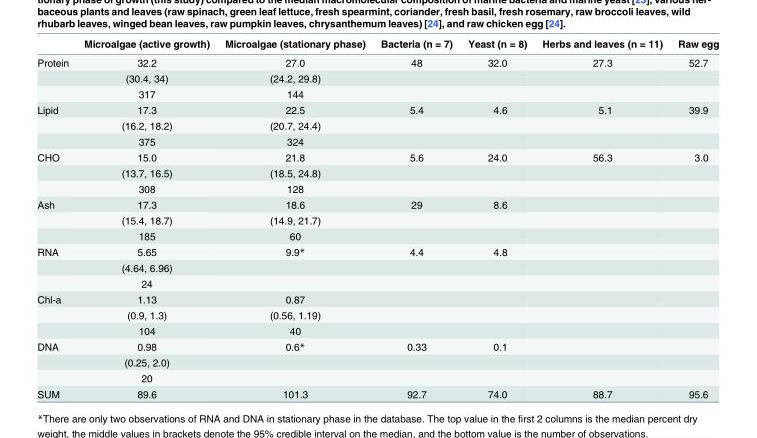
<table><thead><tr><td></td><td>Microalgae (active growth)</td><td>Microalgae (stationary phase)</td><td>Bacteria (n = 7)</td><td>Yeast (n = 8)</td><td>Herbs and leaves (n = 11)</td><td>Raw egg</td></tr></thead><tbody><tr><td rowspan="3">Protein</td><td>32.2</td><td>27.0</td><td>48</td><td>32.0</td><td>27.3</td><td>52.7</td></tr><tr><td>(30.4, 34)</td><td>(24.2, 29.8)</td><td></td><td></td><td></td><td></td></tr><tr><td>317</td><td>144</td><td></td><td></td><td></td><td></td></tr><tr><td rowspan="3">Lipid</td><td>17.3</td><td>22.5</td><td>5.4</td><td>4.6</td><td>5.1</td><td>39.9</td></tr><tr><td>(16.2, 18.2)</td><td>(20.7, 24.4)</td><td></td><td></td><td></td><td></td></tr><tr><td>375</td><td>324</td><td></td><td></td><td></td><td></td></tr><tr><td rowspan="3">CHO</td><td>15.0</td><td>21.8</td><td>5.6</td><td>24.0</td><td>56.3</td><td>3.0</td></tr><tr><td>(13.7, 16.5)</td><td>(18.5, 24.8)</td><td></td><td></td><td></td><td></td></tr><tr><td>308</td><td>128</td><td></td><td></td><td></td><td></td></tr><tr><td rowspan="3">Ash</td><td>17.3</td><td>18.6</td><td>29</td><td>8.6</td><td></td><td></td></tr><tr><td>(15.4, 18.7)</td><td>(14.9, 21.7)</td><td></td><td></td><td></td><td></td></tr><tr><td>185</td><td>60</td><td></td><td></td><td></td><td></td></tr><tr><td rowspan="3">RNA</td><td>5.65</td><td>9.9*</td><td>4.4</td><td>4.8</td><td></td><td></td></tr><tr><td>(4.64, 6.96)</td><td></td><td></td><td></td><td></td><td></td></tr><tr><td>24</td><td></td><td></td><td></td><td></td><td></td></tr><tr><td rowspan="3">Chl-a</td><td>1.13</td><td>0.87</td><td></td><td></td><td></td><td></td></tr><tr><td>(0.9, 1.3)</td><td>(0.56, 1.19)</td><td></td><td></td><td></td><td></td></tr><tr><td>104</td><td>40</td><td></td><td></td><td></td><td></td></tr><tr><td rowspan="3">DNA</td><td>0.98</td><td>0.6*</td><td>0.33</td><td>0.1</td><td></td><td></td></tr><tr><td>(0.25, 2.0)</td><td></td><td></td><td></td><td></td><td></td></tr><tr><td>20</td><td></td><td></td><td></td><td></td><td></td></tr><tr><td>SUM</td><td>89.6</td><td>101.3</td><td>92.7</td><td>74.0</td><td>88.7</td><td>95.6</td></tr></tbody></table>